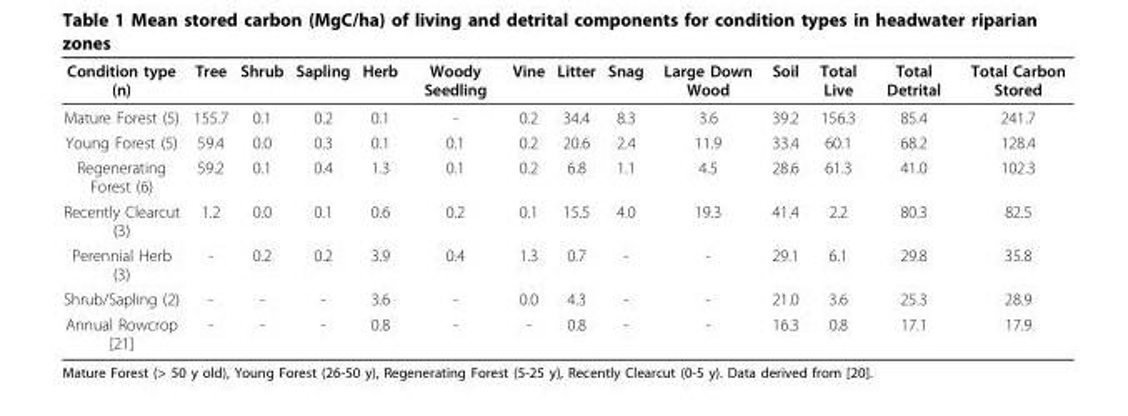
<table><thead><tr><td>Condition type (n)</td><td>Tree</td><td>Shrub</td><td>Sapling</td><td>Herb</td><td>Woody Seedling</td><td>Vine</td><td>Litter</td><td>Snag</td><td>Large Down Wood</td><td>Soil</td><td>Total Live</td><td>Total Detrital</td><td>Total Carbon Stored</td></tr></thead><tbody><tr><td>Mature Forest (5)</td><td>155.7</td><td>0.1</td><td>0.2</td><td>0.1</td><td>-</td><td>0.2</td><td>34.4</td><td>8.3</td><td>3.6</td><td>39.2</td><td>156.3</td><td>85.4</td><td>241.7</td></tr><tr><td>Young Forest (5)</td><td>59.4</td><td>0.0</td><td>0.3</td><td>0.1</td><td>0.1</td><td>0.2</td><td>20.6</td><td>2.4</td><td>11.9</td><td>33.4</td><td>60.1</td><td>68.2</td><td>128.4</td></tr><tr><td>Regenerating Forest (6)</td><td>59.2</td><td>0.1</td><td>0.4</td><td>1.3</td><td>0.1</td><td>0.2</td><td>6.8</td><td>1.1</td><td>4.5</td><td>28.6</td><td>61.3</td><td>41.0</td><td>102.3</td></tr><tr><td>Recently Clearcut (3)</td><td>1.2</td><td>0.0</td><td>0.1</td><td>0.6</td><td>0.2</td><td>0.1</td><td>15.5</td><td>4.0</td><td>19.3</td><td>41.4</td><td>2.2</td><td>80.3</td><td>82.5</td></tr><tr><td>Perennial Herb (3)</td><td>-</td><td>0.2</td><td>0.2</td><td>3.9</td><td>0.4</td><td>1.3</td><td>0.7</td><td>-</td><td>-</td><td>29.1</td><td>6.1</td><td>29.8</td><td>35.8</td></tr><tr><td>Shrub/Sapling (2)</td><td>-</td><td>-</td><td>-</td><td>3.6</td><td>-</td><td>0.0</td><td>4.3</td><td>-</td><td>-</td><td>21.0</td><td>3.6</td><td>25.3</td><td>28.9</td></tr><tr><td>Annual Rowcrop [21]</td><td>-</td><td>-</td><td>-</td><td>0.8</td><td>-</td><td>-</td><td>0.8</td><td>-</td><td>-</td><td>16.3</td><td>0.8</td><td>17.1</td><td>17.9</td></tr></tbody></table>